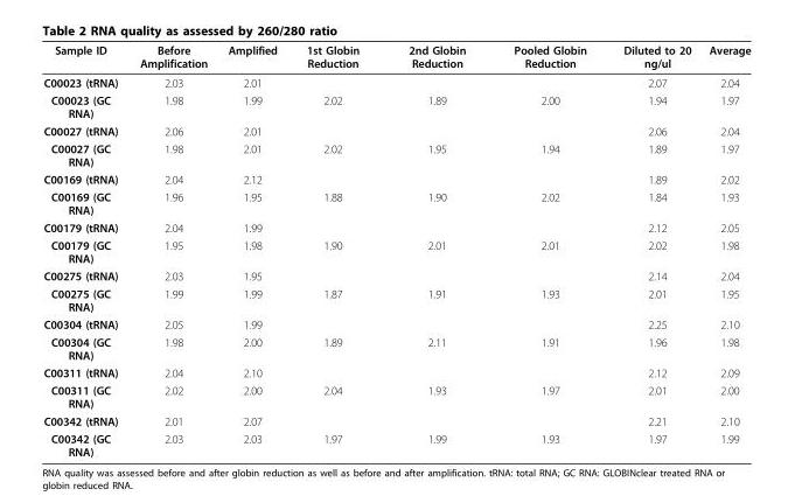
<table><thead><tr><td>Sample ID</td><td>Before Amplification</td><td>Amplified</td><td>1st Globin Reduction</td><td>2nd Globin Reduction</td><td>Pooled Globin Reduction</td><td>Diluted to 20 ng/ul</td><td>Average</td></tr></thead><tbody><tr><td>C00023 (tRNA)</td><td>2.03</td><td>2.01</td><td></td><td></td><td></td><td>2.07</td><td>2.04</td></tr><tr><td>C00023 (GC RNA)</td><td>1.98</td><td>1.99</td><td>2.02</td><td>1.89</td><td>2.00</td><td>1.94</td><td>1.97</td></tr><tr><td>C00027 (tRNA)</td><td>2.06</td><td>2.01</td><td></td><td></td><td></td><td>2.06</td><td>2.04</td></tr><tr><td>C00027 (GC RNA)</td><td>1.98</td><td>2.01</td><td>2.02</td><td>1.95</td><td>1.94</td><td>1.89</td><td>1.97</td></tr><tr><td>C00169 (tRNA)</td><td>2.04</td><td>2.12</td><td></td><td></td><td></td><td>1.89</td><td>2.02</td></tr><tr><td>C00169 (GC RNA)</td><td>1.96</td><td>1.95</td><td>1.88</td><td>1.90</td><td>2.02</td><td>1.84</td><td>1.93</td></tr><tr><td>C00179 (tRNA)</td><td>2.04</td><td>1.99</td><td></td><td></td><td></td><td>2.12</td><td>2.05</td></tr><tr><td>C00179 (GC RNA)</td><td>1.95</td><td>1.98</td><td>1.90</td><td>2.01</td><td>2.01</td><td>2.02</td><td>1.98</td></tr><tr><td>C00275 (tRNA)</td><td>2.03</td><td>1.95</td><td></td><td></td><td></td><td>2.14</td><td>2.04</td></tr><tr><td>C00275 (GC RNA)</td><td>1.99</td><td>1.99</td><td>1.87</td><td>1.91</td><td>1.93</td><td>2.01</td><td>1.95</td></tr><tr><td>C00304 (tRNA)</td><td>2.05</td><td>1.99</td><td></td><td></td><td></td><td>2.25</td><td>2.10</td></tr><tr><td>C00304 (GC RNA)</td><td>1.98</td><td>2.00</td><td>1.89</td><td>2.11</td><td>1.91</td><td>1.96</td><td>1.98</td></tr><tr><td>C00311 (tRNA)</td><td>2.04</td><td>2.10</td><td></td><td></td><td></td><td>2.12</td><td>2.09</td></tr><tr><td>C00311 (GC RNA)</td><td>2.02</td><td>2.00</td><td>2.04</td><td>1.93</td><td>1.97</td><td>2.01</td><td>2.00</td></tr><tr><td>C00342 (tRNA)</td><td>2.01</td><td>2.07</td><td></td><td></td><td></td><td>2.21</td><td>2.10</td></tr><tr><td>C00342 (GC RNA)</td><td>2.03</td><td>2.03</td><td>1.97</td><td>1.99</td><td>1.93</td><td>1.97</td><td>1.99</td></tr></tbody></table>